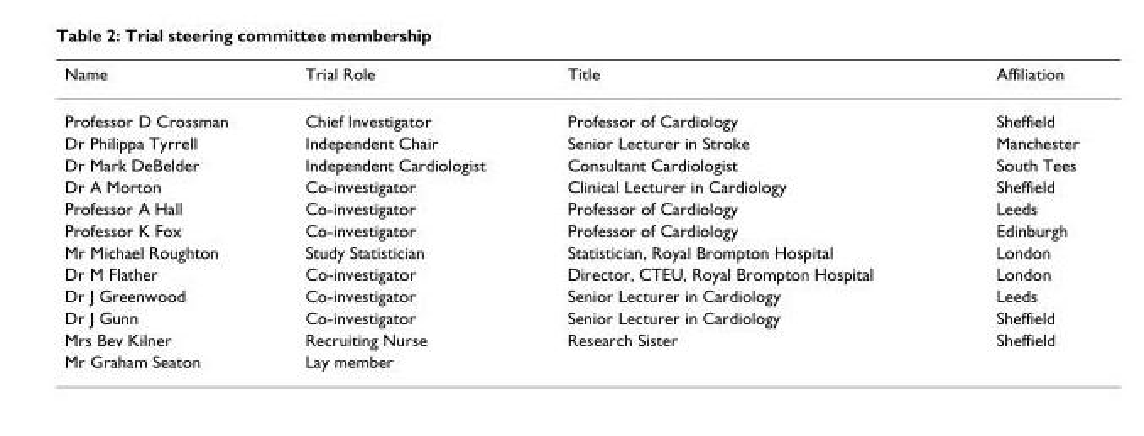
<table><thead><tr><td>Name</td><td>Trial Role</td><td>Title</td><td>Affiliation</td></tr></thead><tbody><tr><td>Professor D Crossman</td><td>Chief Investigator</td><td>Professor of Cardiology</td><td>Sheffield</td></tr><tr><td>Dr Philippa Tyrrell</td><td>Independent Chair</td><td>Senior Lecturer in Stroke</td><td>Manchester</td></tr><tr><td>Dr Mark DeBelder</td><td>Independent Cardiologist</td><td>Consultant Cardiologist</td><td>South Tees</td></tr><tr><td>Dr A Morton</td><td>Co-investigator</td><td>Clinical Lecturer in Cardiology</td><td>Sheffield</td></tr><tr><td>Professor A Hall</td><td>Co-investigator</td><td>Professor of Cardiology</td><td>Leeds</td></tr><tr><td>Professor K Fox</td><td>Co-investigator</td><td>Professor of Cardiology</td><td>Edinburgh</td></tr><tr><td>Mr Michael Roughton</td><td>Study Statistician</td><td>Statistician, Royal Brompton Hospital</td><td>London</td></tr><tr><td>Dr M Flather</td><td>Co-investigator</td><td>Director, CTEU, Royal Brompton Hospital</td><td>London</td></tr><tr><td>Dr J Greenwood</td><td>Co-investigator</td><td>Senior Lecturer in Cardiology</td><td>Leeds</td></tr><tr><td>Dr J Gunn</td><td>Co-investigator</td><td>Senior Lecturer in Cardiology</td><td>Sheffield</td></tr><tr><td>Mrs Bev Kilner</td><td>Recruiting Nurse</td><td>Research Sister</td><td>Sheffield</td></tr><tr><td>Mr Graham Seaton</td><td>Lay member</td><td></td><td></td></tr></tbody></table>